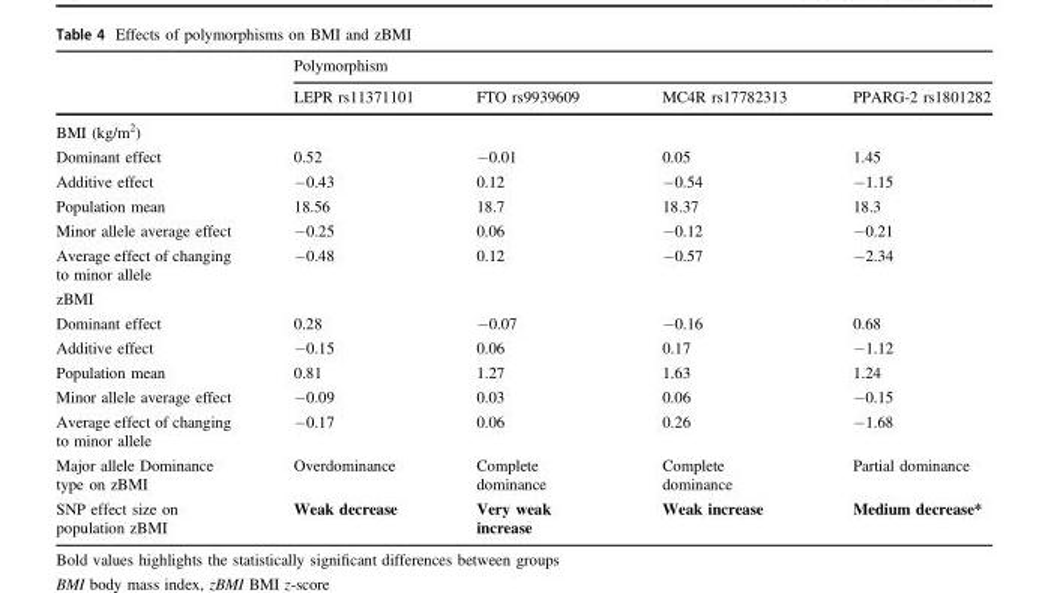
<table><thead><tr><td rowspan="2"></td><td colspan="4">Polymorphism</td></tr><tr><td>LEPR rs11371101</td><td>FTO rs9939609</td><td>MC4R rs17782313</td><td>PPARG-2 rs1801282</td></tr></thead><tbody><tr><td colspan="5">BMI (kg/m<sup>2</sup>)</td></tr><tr><td>Dominant effect</td><td>0.52</td><td>−0.01</td><td>0.05</td><td>1.45</td></tr><tr><td>Additive effect</td><td>−0.43</td><td>0.12</td><td>−0.54</td><td>−1.15</td></tr><tr><td>Population mean</td><td>18.56</td><td>18.7</td><td>18.37</td><td>18.3</td></tr><tr><td>Minor allele average effect</td><td>−0.25</td><td>0.06</td><td>−0.12</td><td>−0.21</td></tr><tr><td>Average effect of changing to minor allele</td><td>−0.48</td><td>0.12</td><td>−0.57</td><td>−2.34</td></tr><tr><td colspan="5">zBMI</td></tr><tr><td>Dominant effect</td><td>0.28</td><td>−0.07</td><td>−0.16</td><td>0.68</td></tr><tr><td>Additive effect</td><td>−0.15</td><td>0.06</td><td>0.17</td><td>−1.12</td></tr><tr><td>Population mean</td><td>0.81</td><td>1.27</td><td>1.63</td><td>1.24</td></tr><tr><td>Minor allele average effect</td><td>−0.09</td><td>0.03</td><td>0.06</td><td>−0.15</td></tr><tr><td>Average effect of changing to minor allele</td><td>−0.17</td><td>0.06</td><td>0.26</td><td>−1.68</td></tr><tr><td>Major allele Dominance type on zBMI</td><td>Overdominance</td><td>Complete dominance</td><td>Complete dominance</td><td>Partial dominance</td></tr><tr><td>SNP effect size on population zBMI</td><td>Weak decrease</td><td>Very weak increase</td><td>Weak increase</td><td>Medium decrease*</td></tr></tbody></table>